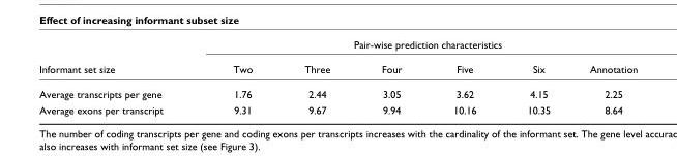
<table><thead><tr><td rowspan="2">Informant set size</td><td colspan="6">Pair-wise prediction characteristics</td></tr><tr><td>Two</td><td>Three</td><td>Four</td><td>Five</td><td>Six</td><td>Annotation</td></tr></thead><tbody><tr><td>Average transcripts per gene</td><td>1.76</td><td>2.44</td><td>3.05</td><td>3.62</td><td>4.15</td><td>2.25</td></tr><tr><td>Average exons per transcript</td><td>9.31</td><td>9.67</td><td>9.94</td><td>10.16</td><td>10.35</td><td>8.64</td></tr></tbody></table>